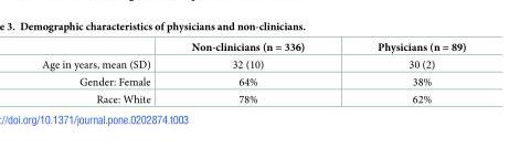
<table><thead><tr><td></td><td>Non-clinicians (n = 336)</td><td>Physicians (n = 89)</td></tr></thead><tbody><tr><td>Age in years, mean (SD)</td><td>32 (10)</td><td>30 (2)</td></tr><tr><td>Gender: Female</td><td>64%</td><td>38%</td></tr><tr><td>Race: White</td><td>78%</td><td>62%</td></tr></tbody></table>